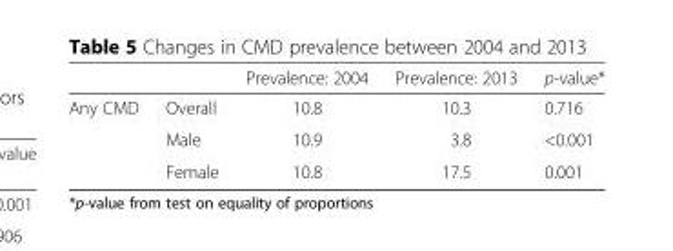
<table><thead><tr><td></td><td></td><td>Prevalence: 2004</td><td>Prevalence: 2013</td><td>p-value*</td></tr></thead><tbody><tr><td rowspan="3">Any CMD</td><td>Overall</td><td>10.8</td><td>10.3</td><td>0.716</td></tr><tr><td>Male</td><td>10.9</td><td>3.8</td><td>&lt;0.001</td></tr><tr><td>Female</td><td>10.8</td><td>17.5</td><td>0.001</td></tr></tbody></table>